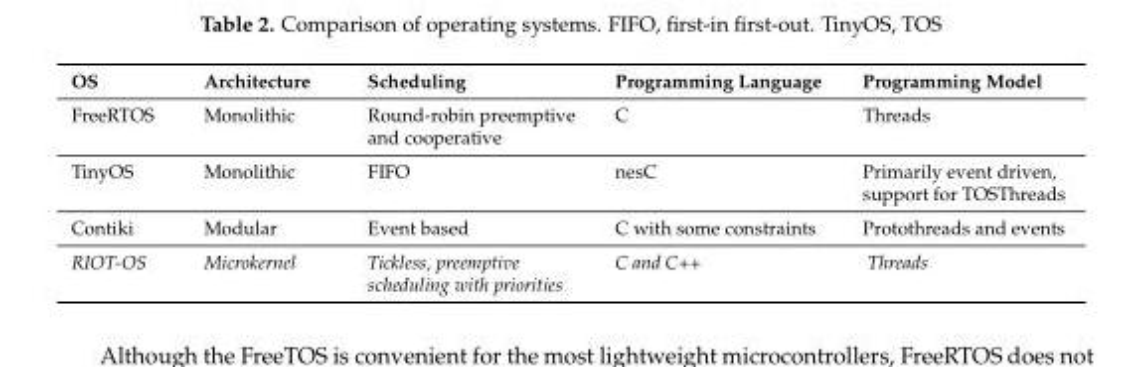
<table><thead><tr><td>OS</td><td>Architecture</td><td>Scheduling</td><td>Programming Language</td><td>Programming Model</td></tr></thead><tbody><tr><td>FreeRTOS</td><td>Monolithic</td><td>Round-robin preemptive and cooperative</td><td>C</td><td>Threads</td></tr><tr><td>TinyOS</td><td>Monolithic</td><td>FIFO</td><td>nesC</td><td>Primarily event driven, support for TOSThreads</td></tr><tr><td>Contiki</td><td>Modular</td><td>Event based</td><td>C with some constraints</td><td>Protothreads and events</td></tr><tr><td>RIOT-OS</td><td>Microkernel</td><td>Tickless, preemptive scheduling with priorities</td><td>C and C++</td><td>Threads</td></tr></tbody></table>